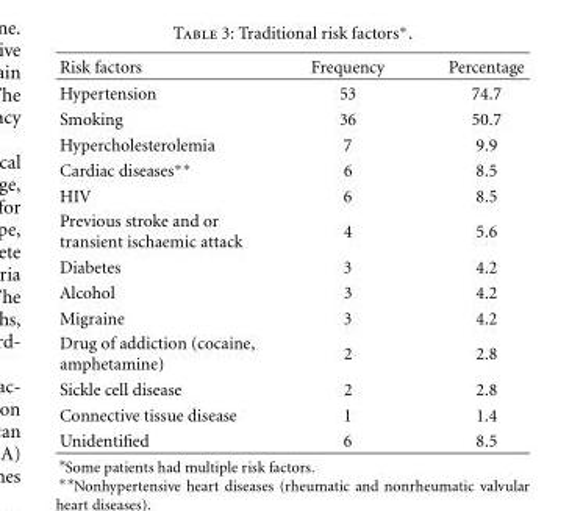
<table><thead><tr><td>Risk factors</td><td>Frequency</td><td>Percentage</td></tr></thead><tbody><tr><td>Hypertension</td><td>53</td><td>74.7</td></tr><tr><td>Smoking</td><td>36</td><td>50.7</td></tr><tr><td>Hypercholesterolemia</td><td>7</td><td>9.9</td></tr><tr><td>Cardiac diseases∗∗</td><td>6</td><td>8.5</td></tr><tr><td>HIV</td><td>6</td><td>8.5</td></tr><tr><td>Previous stroke and or transient ischaemic attack</td><td>4</td><td>5.6</td></tr><tr><td>Diabetes</td><td>3</td><td>4.2</td></tr><tr><td>Alcohol</td><td>3</td><td>4.2</td></tr><tr><td>Migraine</td><td>3</td><td>4.2</td></tr><tr><td>Drug of addiction (cocaine, amphetamine)</td><td>2</td><td>2.8</td></tr><tr><td>Sickle cell disease</td><td>2</td><td>2.8</td></tr><tr><td>Connective tissue disease</td><td>1</td><td>1.4</td></tr><tr><td>Unidentified</td><td>6</td><td>8.5</td></tr></tbody></table>